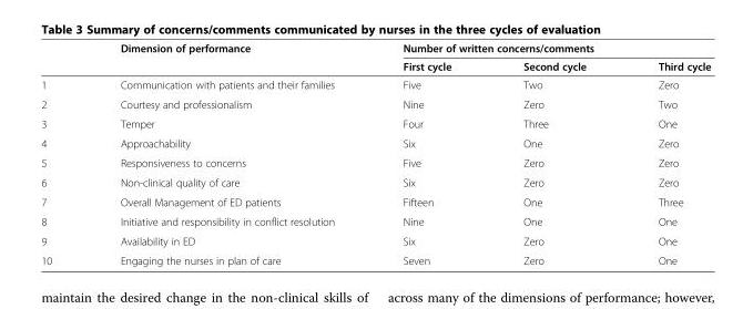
<table><thead><tr><td rowspan="2"></td><td rowspan="2">Dimension of performance</td><td colspan="3">Number of written concerns/comments</td></tr><tr><td>First cycle</td><td>Second cycle</td><td>Third cycle</td></tr></thead><tbody><tr><td>1</td><td>Communication with patients and their families</td><td>Five</td><td>Two</td><td>Zero</td></tr><tr><td>2</td><td>Courtesy and professionalism</td><td>Nine</td><td>Zero</td><td>Two</td></tr><tr><td>3</td><td>Temper</td><td>Four</td><td>Three</td><td>One</td></tr><tr><td>4</td><td>Approachability</td><td>Six</td><td>One</td><td>Zero</td></tr><tr><td>5</td><td>Responsiveness to concerns</td><td>Five</td><td>Zero</td><td>Zero</td></tr><tr><td>6</td><td>Non-clinical quality of care</td><td>Six</td><td>Zero</td><td>Zero</td></tr><tr><td>7</td><td>Overall Management of ED patients</td><td>Fifteen</td><td>One</td><td>Three</td></tr><tr><td>8</td><td>Initiative and responsibility in conflict resolution</td><td>Nine</td><td>One</td><td>One</td></tr><tr><td>9</td><td>Availability in ED</td><td>Six</td><td>Zero</td><td>One</td></tr><tr><td>10</td><td>Engaging the nurses in plan of care</td><td>Seven</td><td>Zero</td><td>One</td></tr></tbody></table>